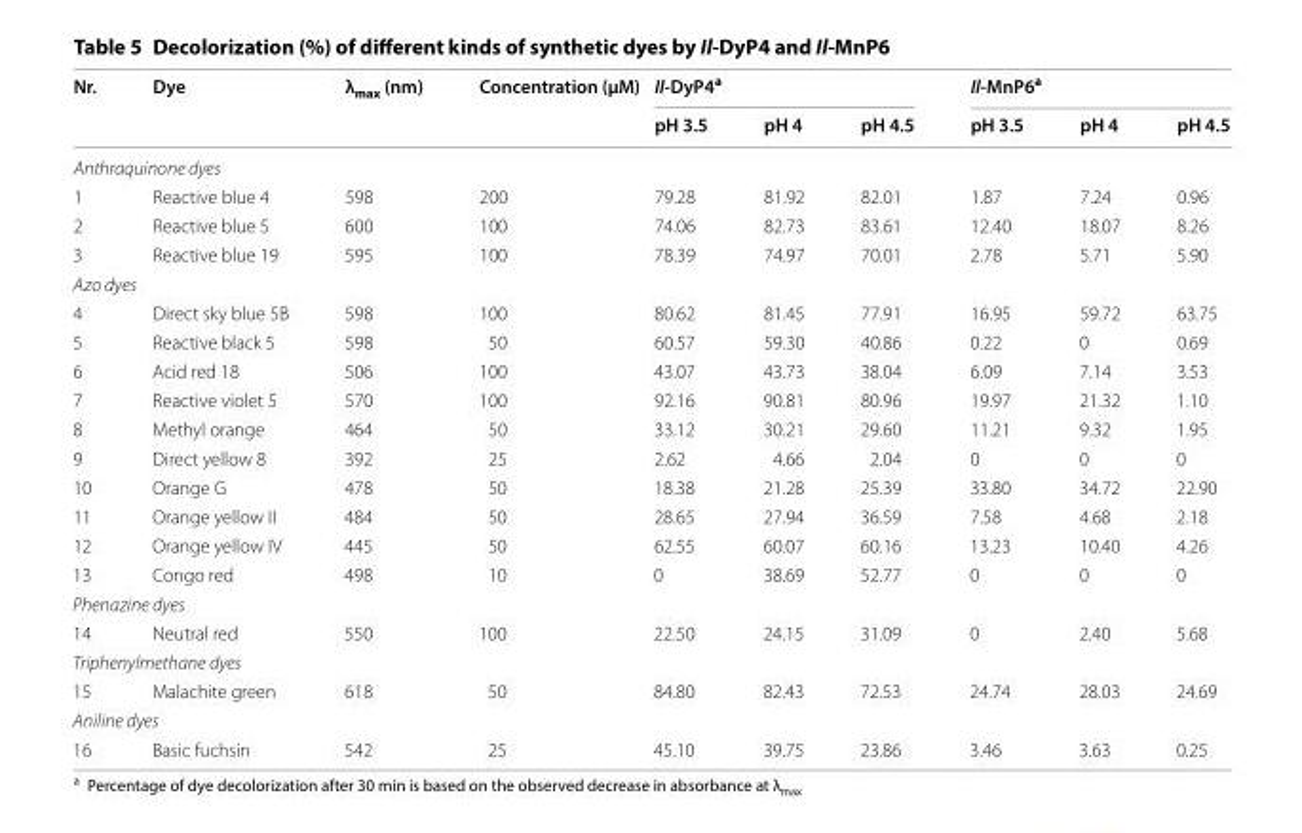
<table><thead><tr><td rowspan="2">Nr.</td><td rowspan="2">Dye</td><td rowspan="2">λ<sub>max</sub> (nm)</td><td rowspan="2">Concentration (μM)</td><td colspan="3">Il‑DyP4<sup>a</sup></td><td colspan="3">Il‑MnP6<sup>a</sup></td></tr><tr><td>pH 3.5</td><td>pH 4</td><td>pH 4.5</td><td>pH 3.5</td><td>pH 4</td><td>pH 4.5</td></tr></thead><tbody><tr><td colspan="10">Anthraquinone dyes</td></tr><tr><td>1</td><td>Reactive blue 4</td><td>598</td><td>200</td><td>79.28</td><td>81.92</td><td>82.01</td><td>1.87</td><td>7.24</td><td>0.96</td></tr><tr><td>2</td><td>Reactive blue 5</td><td>600</td><td>100</td><td>74.06</td><td>82.73</td><td>83.61</td><td>12.40</td><td>18.07</td><td>8.26</td></tr><tr><td>3</td><td>Reactive blue 19</td><td>595</td><td>100</td><td>78.39</td><td>74.97</td><td>70.01</td><td>2.78</td><td>5.71</td><td>5.90</td></tr><tr><td colspan="10">Azo dyes</td></tr><tr><td>4</td><td>Direct sky blue 5B</td><td>598</td><td>100</td><td>80.62</td><td>81.45</td><td>77.91</td><td>16.95</td><td>59.72</td><td>63.75</td></tr><tr><td>5</td><td>Reactive black 5</td><td>598</td><td>50</td><td>60.57</td><td>59.30</td><td>40.86</td><td>0.22</td><td>0</td><td>0.69</td></tr><tr><td>6</td><td>Acid red 18</td><td>506</td><td>100</td><td>43.07</td><td>43.73</td><td>38.04</td><td>6.09</td><td>7.14</td><td>3.53</td></tr><tr><td>7</td><td>Reactive violet 5</td><td>570</td><td>100</td><td>92.16</td><td>90.81</td><td>80.96</td><td>19.97</td><td>21.32</td><td>1.10</td></tr><tr><td>8</td><td>Methyl orange</td><td>464</td><td>50</td><td>33.12</td><td>30.21</td><td>29.60</td><td>11.21</td><td>9.32</td><td>1.95</td></tr><tr><td>9</td><td>Direct yellow 8</td><td>392</td><td>25</td><td>2.62</td><td>4.66</td><td>2.04</td><td>0</td><td>0</td><td>0</td></tr><tr><td>10</td><td>Orange G</td><td>478</td><td>50</td><td>18.38</td><td>21.28</td><td>25.39</td><td>33.80</td><td>34.72</td><td>22.90</td></tr><tr><td>11</td><td>Orange yellow II</td><td>484</td><td>50</td><td>28.65</td><td>27.94</td><td>36.59</td><td>7.58</td><td>4.68</td><td>2.18</td></tr><tr><td>12</td><td>Orange yellow IV</td><td>445</td><td>50</td><td>62.55</td><td>60.07</td><td>60.16</td><td>13.23</td><td>10.40</td><td>4.26</td></tr><tr><td>13</td><td>Congo red</td><td>498</td><td>10</td><td>0</td><td>38.69</td><td>52.77</td><td>0</td><td>0</td><td>0</td></tr><tr><td colspan="10">Phenazine dyes</td></tr><tr><td>14</td><td>Neutral red</td><td>550</td><td>100</td><td>22.50</td><td>24.15</td><td>31.09</td><td>0</td><td>2.40</td><td>5.68</td></tr><tr><td colspan="10">Triphenylmethane dyes</td></tr><tr><td>15</td><td>Malachite green</td><td>618</td><td>50</td><td>84.80</td><td>82.43</td><td>72.53</td><td>24.74</td><td>28.03</td><td>24.69</td></tr><tr><td colspan="10">Aniline dyes</td></tr><tr><td>16</td><td>Basic fuchsin</td><td>542</td><td>25</td><td>45.10</td><td>39.75</td><td>23.86</td><td>3.46</td><td>3.63</td><td>0.25</td></tr></tbody></table>